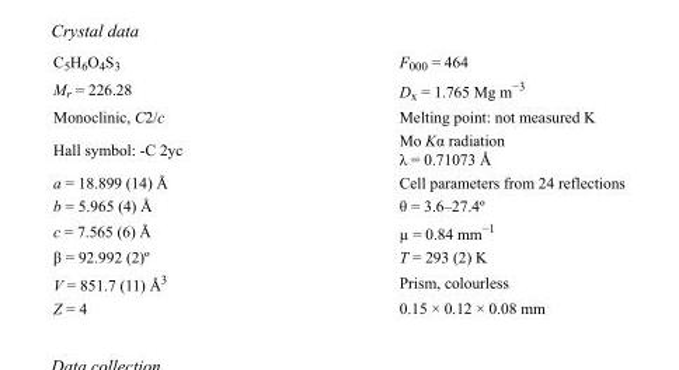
<table><tbody><tr><td>C<sub>5</sub>H<sub>6</sub>O<sub>4</sub>S<sub>3</sub></td><td>F000 = 464</td></tr><tr><td>M<sub>r</sub> = 226.28</td><td>D<sub>x</sub> = 1.765 Mg m<sup>−3</sup></td></tr><tr><td>Monoclinic, C2/c</td><td>Melting point: not measured K</td></tr><tr><td>Hall symbol: -C 2yc</td><td>Mo Kα radiation λ = 0.71073 Å</td></tr><tr><td>a = 18.899 (14) Å</td><td>Cell parameters from 24 reflections</td></tr><tr><td>b = 5.965 (4) Å</td><td>θ = 3.6–27.4º</td></tr><tr><td>c = 7.565 (6) Å</td><td>µ = 0.84 mm<sup>−1</sup></td></tr><tr><td>β = 92.992 (2)º</td><td>T = 293 (2) K</td></tr><tr><td>V = 851.7 (11) Å<sup>3</sup></td><td>Prism, colourless</td></tr><tr><td>Z = 4</td><td>0.15 × 0.12 × 0.08 mm</td></tr></tbody></table>